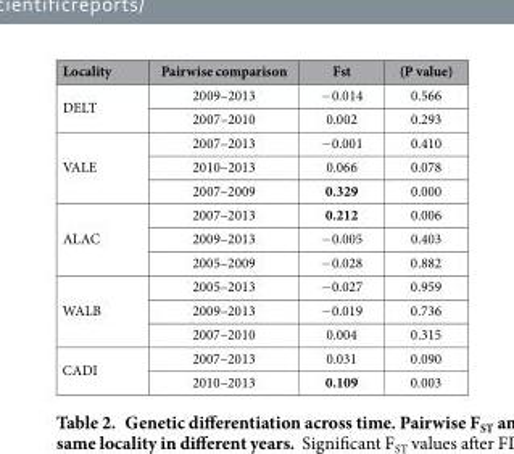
<table><thead><tr><td>Locality</td><td>Pairwise comparison</td><td>Fst</td><td>(P value)</td></tr></thead><tbody><tr><td rowspan="2">DELT</td><td>2009–2013</td><td>− 0.014</td><td>0.566</td></tr><tr><td>2007–2010</td><td>0.002</td><td>0.293</td></tr><tr><td rowspan="3">VALE</td><td>2007–2013</td><td>− 0.001</td><td>0.410</td></tr><tr><td>2010–2013</td><td>0.066</td><td>0.078</td></tr><tr><td>2007–2009</td><td>0.329</td><td>0.000</td></tr><tr><td rowspan="3">ALAC</td><td>2007–2013</td><td>0.212</td><td>0.006</td></tr><tr><td>2009–2013</td><td>− 0.005</td><td>0.403</td></tr><tr><td>2005–2009</td><td>− 0.028</td><td>0.882</td></tr><tr><td rowspan="3">WALB</td><td>2005–2013</td><td>− 0.027</td><td>0.959</td></tr><tr><td>2009–2013</td><td>− 0.019</td><td>0.736</td></tr><tr><td>2007–2010</td><td>0.004</td><td>0.315</td></tr><tr><td rowspan="2">CADI</td><td>2007–2013</td><td>0.031</td><td>0.090</td></tr><tr><td>2010–2013</td><td>0.109</td><td>0.003</td></tr></tbody></table>